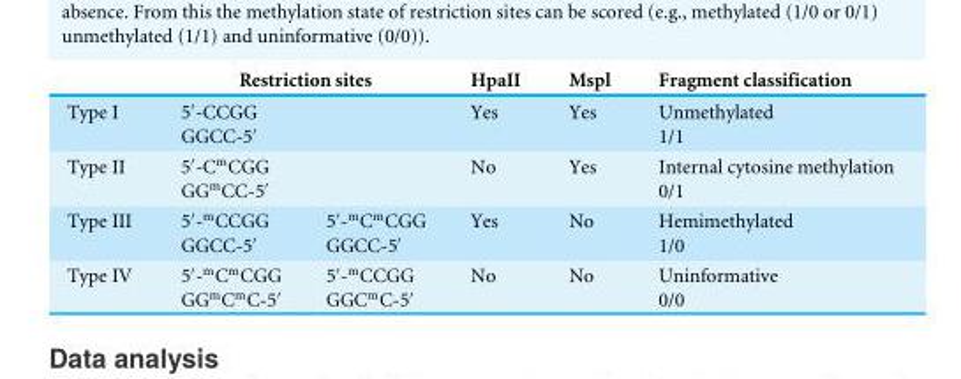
<table><thead><tr><td rowspan="2">Type I</td><td colspan="2">Restriction sites</td><td rowspan="2">HpaII Yes</td><td rowspan="2">Mspl Yes</td><td rowspan="2">Fragment classification Unmethylated 1/1</td></tr><tr><td>5′-CCGG GGCC-5′</td><td></td></tr></thead><tbody><tr><td>Type II</td><td>5′-C<sup>m</sup>CGG GG<sup>m</sup>CC-5′</td><td></td><td>No</td><td>Yes</td><td>Internal cytosine methylation 0/1</td></tr><tr><td>Type III</td><td>5′-<sup>m</sup>CCGG GGCC-5′</td><td>5′-<sup>m</sup>C<sup>m</sup>CGG GGCC-5′</td><td>Yes</td><td>No</td><td>Hemimethylated 1/0</td></tr><tr><td>Type IV</td><td>5′-<sup>m</sup>C<sup>m</sup>CGG GG<sup>m</sup>C<sup>m</sup>C-5′</td><td>5′-<sup>m</sup>CCGG GGC<sup>m</sup>C-5′</td><td>No</td><td>No</td><td>Uninformative 0/0</td></tr></tbody></table>